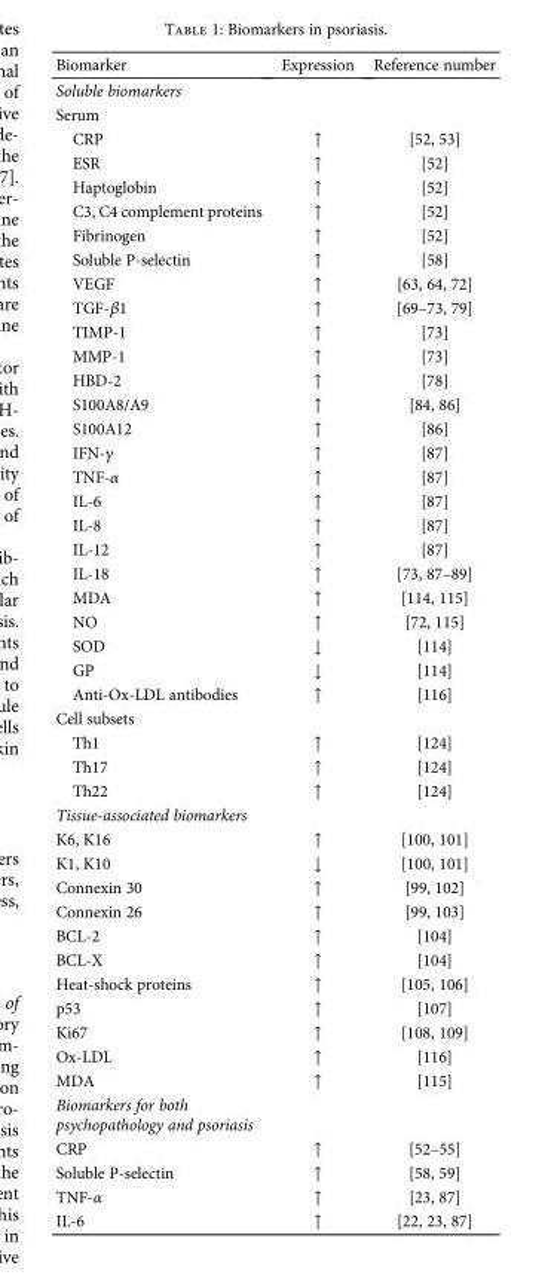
<table><thead><tr><td>Biomarker</td><td>Expression</td><td>Reference number</td></tr></thead><tbody><tr><td colspan="3">Soluble biomarkers</td></tr><tr><td colspan="3">Serum</td></tr><tr><td>CRP</td><td>↑</td><td>[52, 53]</td></tr><tr><td>ESR</td><td>↑</td><td>[52]</td></tr><tr><td>Haptoglobin</td><td>↑</td><td>[52]</td></tr><tr><td>C3, C4 complement proteins</td><td>↑</td><td>[52]</td></tr><tr><td>Fibrinogen</td><td>↑</td><td>[52]</td></tr><tr><td>Soluble P-selectin</td><td>↑</td><td>[58]</td></tr><tr><td>VEGF</td><td>↑</td><td>[63, 64, 72]</td></tr><tr><td>TGF-β1</td><td>↑</td><td>[69–73, 79]</td></tr><tr><td>TIMP-1</td><td>↑</td><td>[73]</td></tr><tr><td>MMP-1</td><td>↑</td><td>[73]</td></tr><tr><td>HBD-2</td><td>↑</td><td>[78]</td></tr><tr><td>S100A8/A9</td><td>↑</td><td>[84, 86]</td></tr><tr><td>S100A12</td><td>↑</td><td>[86]</td></tr><tr><td>IFN-γ</td><td>↑</td><td>[87]</td></tr><tr><td>TNF-α</td><td>↑</td><td>[87]</td></tr><tr><td>IL-6</td><td>↑</td><td>[87]</td></tr><tr><td>IL-8</td><td>↑</td><td>[87]</td></tr><tr><td>IL-12</td><td>↑</td><td>[87]</td></tr><tr><td>IL-18</td><td>↑</td><td>[73, 87–89]</td></tr><tr><td>MDA</td><td>↑</td><td>[114, 115]</td></tr><tr><td>NO</td><td>↑</td><td>[72, 115]</td></tr><tr><td>SOD</td><td>↓</td><td>[114]</td></tr><tr><td>GP</td><td>↓</td><td>[114]</td></tr><tr><td>Anti-Ox-LDL antibodies</td><td>↑</td><td>[116]</td></tr><tr><td colspan="3">Cell subsets</td></tr><tr><td>Th1</td><td>↑</td><td>[124]</td></tr><tr><td>Th17</td><td>↑</td><td>[124]</td></tr><tr><td>Th22</td><td>↑</td><td>[124]</td></tr><tr><td colspan="3">Tissue-associated biomarkers</td></tr><tr><td>K6, K16</td><td>↑</td><td>[100, 101]</td></tr><tr><td>K1, K10</td><td>↓</td><td>[100, 101]</td></tr><tr><td>Connexin 30</td><td>↑</td><td>[99, 102]</td></tr><tr><td>Connexin 26</td><td>↑</td><td>[99, 103]</td></tr><tr><td>BCL-2</td><td>↑</td><td>[104]</td></tr><tr><td>BCL-X</td><td>↑</td><td>[104]</td></tr><tr><td>Heat-shock proteins</td><td>↑</td><td>[105, 106]</td></tr><tr><td>p53</td><td>↑</td><td>[107]</td></tr><tr><td>Ki67</td><td>↑</td><td>[108, 109]</td></tr><tr><td>Ox-LDL</td><td>↑</td><td>[116]</td></tr><tr><td>MDA</td><td>↑</td><td>[115]</td></tr><tr><td colspan="3">Biomarkers for both psychopathology and psoriasis</td></tr><tr><td>CRP</td><td>↑</td><td>[52–55]</td></tr><tr><td>Soluble P-selectin</td><td>↑</td><td>[58, 59]</td></tr><tr><td>TNF-α</td><td>↑</td><td>[23, 87]</td></tr><tr><td>IL-6</td><td>↑</td><td>[22, 23, 87]</td></tr></tbody></table>